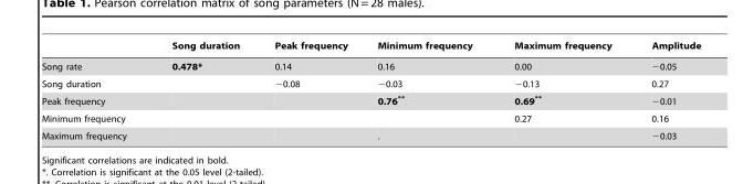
<table><thead><tr><td></td><td>Song duration</td><td>Peak frequency</td><td>Minimum frequency</td><td>Maximum frequency</td><td>Amplitude</td></tr></thead><tbody><tr><td>Song rate</td><td>0.478*</td><td>0.14</td><td>0.16</td><td>0.00</td><td>−0.05</td></tr><tr><td>Song duration</td><td></td><td>−0.08</td><td>−0.03</td><td>−0.13</td><td>0.27</td></tr><tr><td>Peak frequency</td><td></td><td></td><td>0.76**</td><td>0.69**</td><td>−0.01</td></tr><tr><td>Minimum frequency</td><td></td><td></td><td></td><td>0.27</td><td>0.16</td></tr><tr><td>Maximum frequency</td><td></td><td></td><td>.</td><td></td><td>−0.03</td></tr></tbody></table>